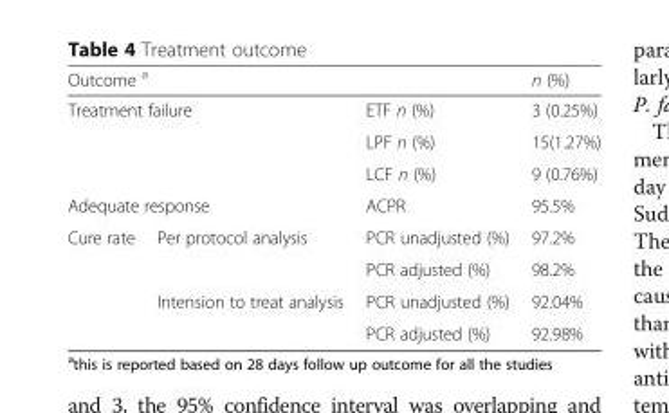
<table><thead><tr><td colspan="3">Outcome <sup>a</sup></td><td>n (%)</td></tr></thead><tbody><tr><td rowspan="3" colspan="2">Treatment failure</td><td>ETF n (%)</td><td>3 (0.25%)</td></tr><tr><td>LPF n (%)</td><td>15(1.27%)</td></tr><tr><td>LCF n (%)</td><td>9 (0.76%)</td></tr><tr><td colspan="2">Adequate response</td><td>ACPR</td><td>95.5%</td></tr><tr><td rowspan="4">Cure rate</td><td rowspan="2">Per protocol analysis</td><td>PCR unadjusted (%)</td><td>97.2%</td></tr><tr><td>PCR adjusted (%)</td><td>98.2%</td></tr><tr><td rowspan="2">Intension to treat analysis</td><td>PCR unadjusted (%)</td><td>92.04%</td></tr><tr><td>PCR adjusted (%)</td><td>92.98%</td></tr></tbody></table>